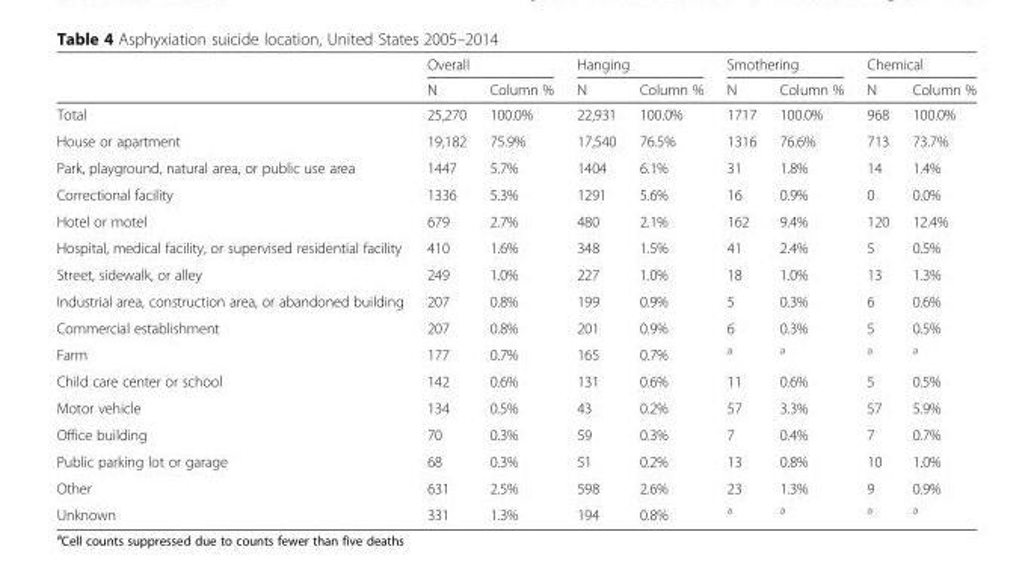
<table><thead><tr><td rowspan="2"></td><td colspan="2">Overall</td><td colspan="2">Hanging</td><td colspan="2">Smothering</td><td colspan="2">Chemical</td></tr><tr><td>N</td><td>Column %</td><td>N</td><td>Column %</td><td>N</td><td>Column %</td><td>N</td><td>Column %</td></tr></thead><tbody><tr><td>Total</td><td>25,270</td><td>100.0%</td><td>22,931</td><td>100.0%</td><td>1717</td><td>100.0%</td><td>968</td><td>100.0%</td></tr><tr><td>House or apartment</td><td>19,182</td><td>75.9%</td><td>17,540</td><td>76.5%</td><td>1316</td><td>76.6%</td><td>713</td><td>73.7%</td></tr><tr><td>Park, playground, natural area, or public use area</td><td>1447</td><td>5.7%</td><td>1404</td><td>6.1%</td><td>31</td><td>1.8%</td><td>14</td><td>1.4%</td></tr><tr><td>Correctional facility</td><td>1336</td><td>5.3%</td><td>1291</td><td>5.6%</td><td>16</td><td>0.9%</td><td>0</td><td>0.0%</td></tr><tr><td>Hotel or motel</td><td>679</td><td>2.7%</td><td>480</td><td>2.1%</td><td>162</td><td>9.4%</td><td>120</td><td>12.4%</td></tr><tr><td>Hospital, medical facility, or supervised residential facility</td><td>410</td><td>1.6%</td><td>348</td><td>1.5%</td><td>41</td><td>2.4%</td><td>5</td><td>0.5%</td></tr><tr><td>Street, sidewalk, or alley</td><td>249</td><td>1.0%</td><td>227</td><td>1.0%</td><td>18</td><td>1.0%</td><td>13</td><td>1.3%</td></tr><tr><td>Industrial area, construction area, or abandoned building</td><td>207</td><td>0.8%</td><td>199</td><td>0.9%</td><td>5</td><td>0.3%</td><td>6</td><td>0.6%</td></tr><tr><td>Commercial establishment</td><td>207</td><td>0.8%</td><td>201</td><td>0.9%</td><td>6</td><td>0.3%</td><td>5</td><td>0.5%</td></tr><tr><td>Farm</td><td>177</td><td>0.7%</td><td>165</td><td>0.7%</td><td><sup>a</sup></td><td><sup>a</sup></td><td><sup>a</sup></td><td><sup>a</sup></td></tr><tr><td>Child care center or school</td><td>142</td><td>0.6%</td><td>131</td><td>0.6%</td><td>11</td><td>0.6%</td><td>5</td><td>0.5%</td></tr><tr><td>Motor vehicle</td><td>134</td><td>0.5%</td><td>43</td><td>0.2%</td><td>57</td><td>3.3%</td><td>57</td><td>5.9%</td></tr><tr><td>Office building</td><td>70</td><td>0.3%</td><td>59</td><td>0.3%</td><td>7</td><td>0.4%</td><td>7</td><td>0.7%</td></tr><tr><td>Public parking lot or garage</td><td>68</td><td>0.3%</td><td>51</td><td>0.2%</td><td>13</td><td>0.8%</td><td>10</td><td>1.0%</td></tr><tr><td>Other</td><td>631</td><td>2.5%</td><td>598</td><td>2.6%</td><td>23</td><td>1.3%</td><td>9</td><td>0.9%</td></tr><tr><td>Unknown</td><td>331</td><td>1.3%</td><td>194</td><td>0.8%</td><td><sup>a</sup></td><td><sup>a</sup></td><td><sup>a</sup></td><td><sup>a</sup></td></tr></tbody></table>